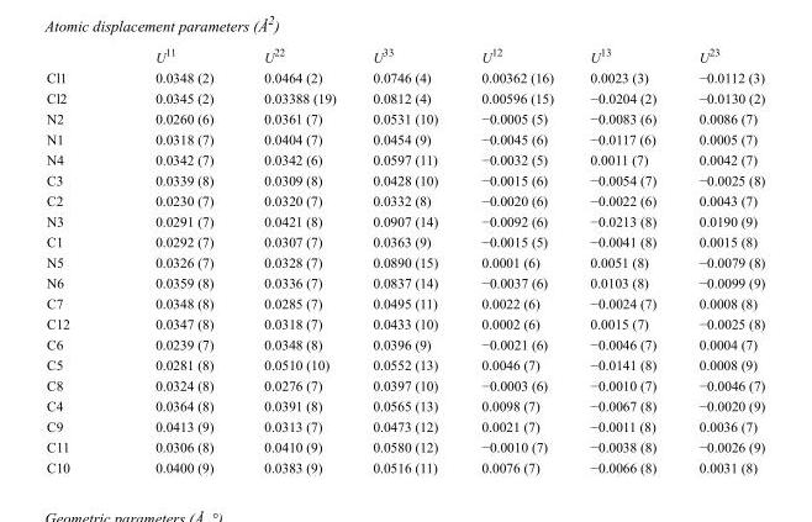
<table><thead><tr><td></td><td>U<sup>11</sup></td><td>U<sup>22</sup></td><td>U<sup>33</sup></td><td>U<sup>12</sup></td><td>U<sup>13</sup></td><td>U<sup>23</sup></td></tr></thead><tbody><tr><td>Cl1</td><td>0.0348 (2)</td><td>0.0464 (2)</td><td>0.0746 (4)</td><td>0.00362 (16)</td><td>0.0023 (3)</td><td>−0.0112 (3)</td></tr><tr><td>Cl2</td><td>0.0345 (2)</td><td>0.03388 (19)</td><td>0.0812 (4)</td><td>0.00596 (15)</td><td>−0.0204 (2)</td><td>−0.0130 (2)</td></tr><tr><td>N2</td><td>0.0260 (6)</td><td>0.0361 (7)</td><td>0.0531 (10)</td><td>−0.0005 (5)</td><td>−0.0083 (6)</td><td>0.0086 (7)</td></tr><tr><td>N1</td><td>0.0318 (7)</td><td>0.0404 (7)</td><td>0.0454 (9)</td><td>−0.0045 (6)</td><td>−0.0117 (6)</td><td>0.0005 (7)</td></tr><tr><td>N4</td><td>0.0342 (7)</td><td>0.0342 (6)</td><td>0.0597 (11)</td><td>−0.0032 (5)</td><td>0.0011 (7)</td><td>0.0042 (7)</td></tr><tr><td>C3</td><td>0.0339 (8)</td><td>0.0309 (8)</td><td>0.0428 (10)</td><td>−0.0015 (6)</td><td>−0.0054 (7)</td><td>−0.0025 (8)</td></tr><tr><td>C2</td><td>0.0230 (7)</td><td>0.0320 (7)</td><td>0.0332 (8)</td><td>−0.0020 (6)</td><td>−0.0022 (6)</td><td>0.0043 (7)</td></tr><tr><td>N3</td><td>0.0291 (7)</td><td>0.0421 (8)</td><td>0.0907 (14)</td><td>−0.0092 (6)</td><td>−0.0213 (8)</td><td>0.0190 (9)</td></tr><tr><td>C1</td><td>0.0292 (7)</td><td>0.0307 (7)</td><td>0.0363 (9)</td><td>−0.0015 (5)</td><td>−0.0041 (8)</td><td>0.0015 (8)</td></tr><tr><td>N5</td><td>0.0326 (7)</td><td>0.0328 (7)</td><td>0.0890 (15)</td><td>0.0001 (6)</td><td>0.0051 (8)</td><td>−0.0079 (8)</td></tr><tr><td>N6</td><td>0.0359 (8)</td><td>0.0336 (7)</td><td>0.0837 (14)</td><td>−0.0037 (6)</td><td>0.0103 (8)</td><td>−0.0099 (9)</td></tr><tr><td>C7</td><td>0.0348 (8)</td><td>0.0285 (7)</td><td>0.0495 (11)</td><td>0.0022 (6)</td><td>−0.0024 (7)</td><td>0.0008 (8)</td></tr><tr><td>C12</td><td>0.0347 (8)</td><td>0.0318 (7)</td><td>0.0433 (10)</td><td>0.0002 (6)</td><td>0.0015 (7)</td><td>−0.0025 (8)</td></tr><tr><td>C6</td><td>0.0239 (7)</td><td>0.0348 (8)</td><td>0.0396 (9)</td><td>−0.0021 (6)</td><td>−0.0046 (7)</td><td>0.0004 (7)</td></tr><tr><td>C5</td><td>0.0281 (8)</td><td>0.0510 (10)</td><td>0.0552 (13)</td><td>0.0046 (7)</td><td>−0.0141 (8)</td><td>0.0008 (9)</td></tr><tr><td>C8</td><td>0.0324 (8)</td><td>0.0276 (7)</td><td>0.0397 (10)</td><td>−0.0003 (6)</td><td>−0.0010 (7)</td><td>−0.0046 (7)</td></tr><tr><td>C4</td><td>0.0364 (8)</td><td>0.0391 (8)</td><td>0.0565 (13)</td><td>0.0098 (7)</td><td>−0.0067 (8)</td><td>−0.0020 (9)</td></tr><tr><td>C9</td><td>0.0413 (9)</td><td>0.0313 (7)</td><td>0.0473 (12)</td><td>0.0021 (7)</td><td>−0.0011 (8)</td><td>0.0036 (7)</td></tr><tr><td>C11</td><td>0.0306 (8)</td><td>0.0410 (9)</td><td>0.0580 (12)</td><td>−0.0010 (7)</td><td>−0.0038 (8)</td><td>−0.0026 (9)</td></tr><tr><td>C10</td><td>0.0400 (9)</td><td>0.0383 (9)</td><td>0.0516 (11)</td><td>0.0076 (7)</td><td>−0.0066 (8)</td><td>0.0031 (8)</td></tr></tbody></table>